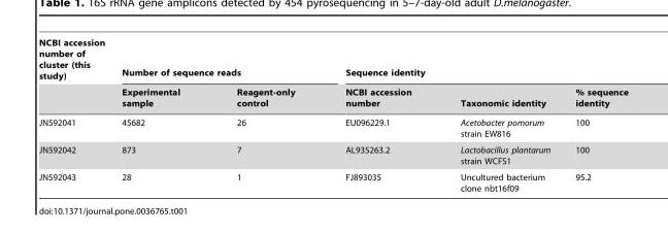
<table><thead><tr><td rowspan="2">NCBI accession number of cluster (this study)</td><td colspan="2">Number of sequence reads</td><td colspan="3">Sequence identity</td></tr><tr><td>Experimental sample</td><td>Reagent-only control</td><td>NCBI accession number</td><td>Taxonomic identity</td><td>% sequence identity</td></tr></thead><tbody><tr><td>JN592041</td><td>45682</td><td>26</td><td>EU096229.1</td><td>Acetobacter pomorum strain EW816</td><td>100</td></tr><tr><td>JN592042</td><td>873</td><td>7</td><td>AL935263.2</td><td>Lactobacillus plantarum strain WCFS1</td><td>100</td></tr><tr><td>JN592043</td><td>28</td><td>1</td><td>FJ893035</td><td>Uncultured bacterium clone nbt16f09</td><td>95.2</td></tr></tbody></table>